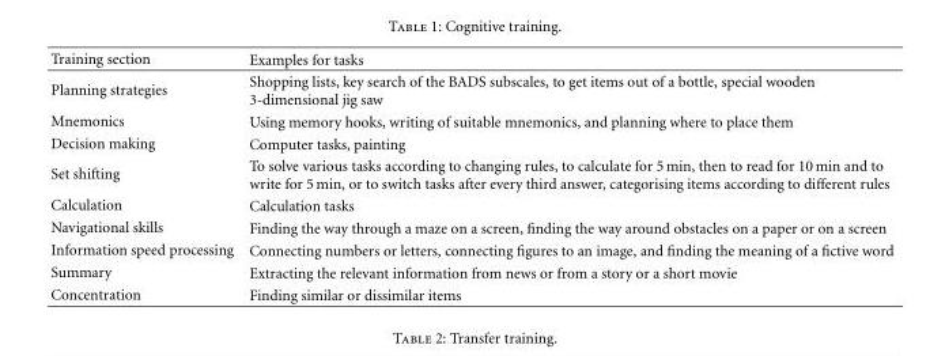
<table><thead><tr><td>Training section</td><td>Examples for tasks</td></tr></thead><tbody><tr><td>Planning strategies</td><td>Shopping lists, key search of the BADS subscales, to get items out of a bottle, special wooden 3-dimensional jig saw</td></tr><tr><td>Mnemonics</td><td>Using memory hooks, writing of suitable mnemonics, and planning where to place them</td></tr><tr><td>Decision making</td><td>Computer tasks, painting</td></tr><tr><td>Set shifting</td><td>To solve various tasks according to changing rules, to calculate for 5 min, then to read for 10 min and to write for 5 min, or to switch tasks after every third answer, categorising items according to different rules</td></tr><tr><td>Calculation</td><td>Calculation tasks</td></tr><tr><td>Navigational skills</td><td>Finding the way through a maze on a screen, finding the way around obstacles on a paper or on a screen</td></tr><tr><td>Information speed processing</td><td>Connecting numbers or letters, connecting figures to an image, and finding the meaning of a fictive word</td></tr><tr><td>Summary</td><td>Extracting the relevant information from news or from a story or a short movie</td></tr><tr><td>Concentration</td><td>Finding similar or dissimilar items</td></tr></tbody></table>